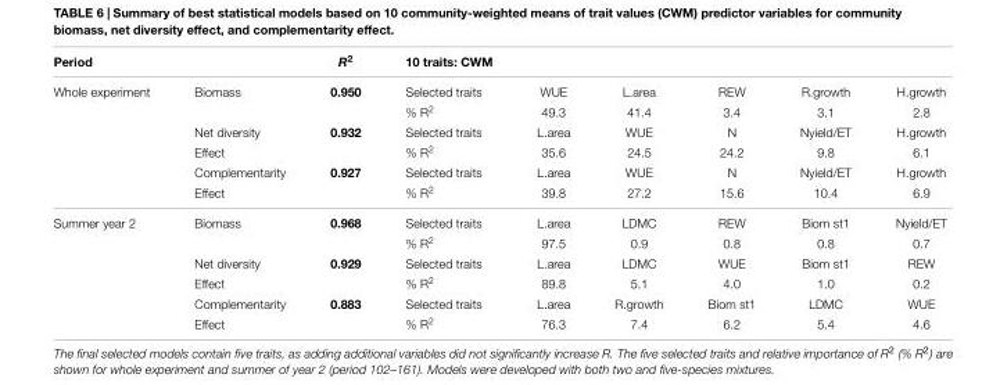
<table><thead><tr><td>Period</td><td></td><td>R<sup>2</sup></td><td>10 traits: CWM</td><td></td><td></td><td></td><td></td><td></td></tr></thead><tbody><tr><td rowspan="6">Whole experiment</td><td>Biomass</td><td>0.950</td><td>Selected traits</td><td>WUE</td><td>L.area</td><td>REW</td><td>R.growth</td><td>H.growth</td></tr><tr><td></td><td></td><td>% R<sup>2</sup></td><td>49.3</td><td>41.4</td><td>3.4</td><td>3.1</td><td>2.8</td></tr><tr><td>Net diversity</td><td>0.932</td><td>Selected traits</td><td>L.area</td><td>WUE</td><td>N</td><td>Nyield/ET</td><td>H.growth</td></tr><tr><td>Effect</td><td></td><td>% R<sup>2</sup></td><td>35.6</td><td>24.5</td><td>24.2</td><td>9.8</td><td>6.1</td></tr><tr><td>Complementarity</td><td>0.927</td><td>Selected traits</td><td>L.area</td><td>WUE</td><td>N</td><td>Nyield/ET</td><td>H.growth</td></tr><tr><td>Effect</td><td></td><td>% R<sup>2</sup></td><td>39.8</td><td>27.2</td><td>15.6</td><td>10.4</td><td>6.9</td></tr><tr><td rowspan="6">Summer year 2</td><td>Biomass</td><td>0.968</td><td>Selected traits</td><td>L.area</td><td>LDMC</td><td>REW</td><td>Biom st1</td><td>Nyield/ET</td></tr><tr><td></td><td></td><td>% R<sup>2</sup></td><td>97.5</td><td>0.9</td><td>0.8</td><td>0.8</td><td>0.7</td></tr><tr><td>Net diversity</td><td>0.929</td><td>Selected traits</td><td>L.area</td><td>LDMC</td><td>WUE</td><td>Biom st1</td><td>REW</td></tr><tr><td>Effect</td><td></td><td>% R<sup>2</sup></td><td>89.8</td><td>5.1</td><td>4.0</td><td>1.0</td><td>0.2</td></tr><tr><td>Complementarity</td><td>0.883</td><td>Selected traits</td><td>L.area</td><td>R.growth</td><td>Biom st1</td><td>LDMC</td><td>WUE</td></tr><tr><td>Effect</td><td></td><td>% R<sup>2</sup></td><td>76.3</td><td>7.4</td><td>6.2</td><td>5.4</td><td>4.6</td></tr></tbody></table>